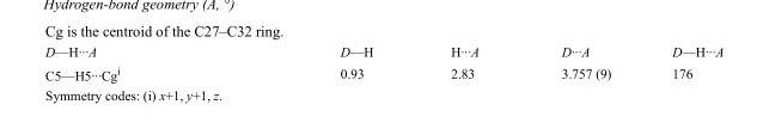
<table><tbody><tr><td>D—H···A</td><td>D—H</td><td>H···A</td><td>D···A</td><td>D—H···A</td></tr><tr><td>C5—H5···Cg<sup>i</sup></td><td>0.93</td><td>2.83</td><td>3.757 (9)</td><td>176</td></tr></tbody></table>